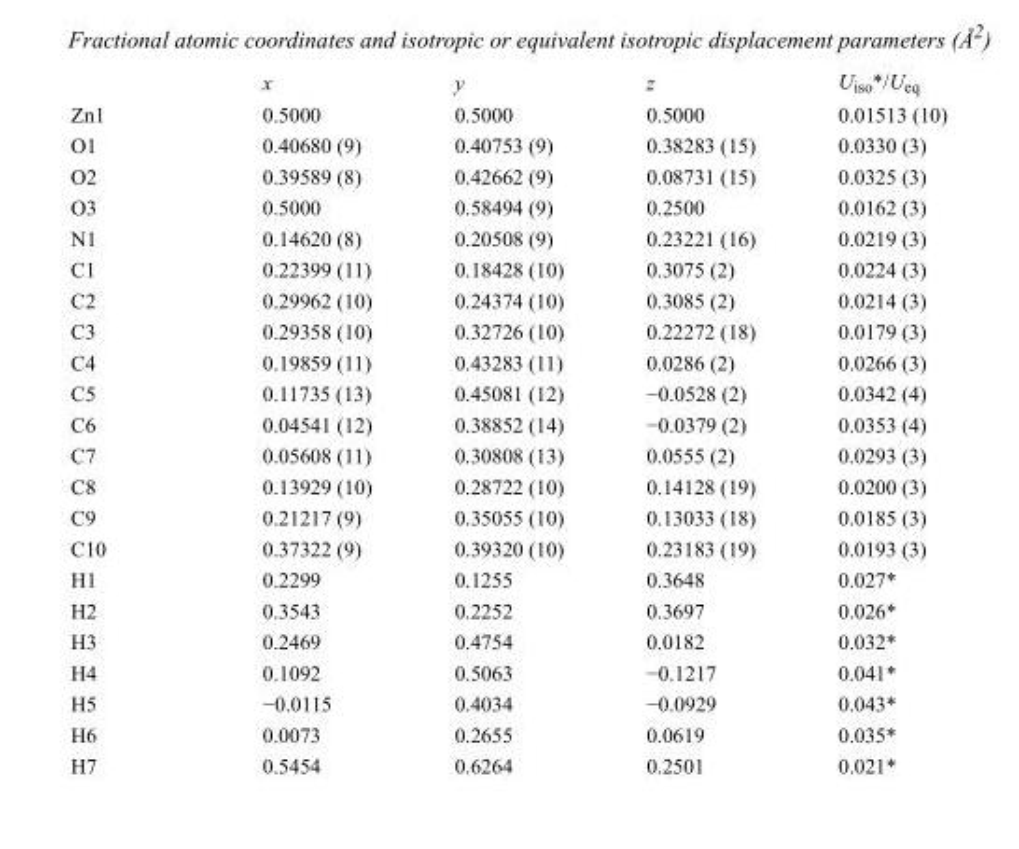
<table><thead><tr><td></td><td>x</td><td>y</td><td>z</td><td>U<sub>iso</sub>*/U<sub>eq</sub></td></tr></thead><tbody><tr><td>Zn1</td><td>0.5000</td><td>0.5000</td><td>0.5000</td><td>0.01513 (10)</td></tr><tr><td>O1</td><td>0.40680 (9)</td><td>0.40753 (9)</td><td>0.38283 (15)</td><td>0.0330 (3)</td></tr><tr><td>O2</td><td>0.39589 (8)</td><td>0.42662 (9)</td><td>0.08731 (15)</td><td>0.0325 (3)</td></tr><tr><td>O3</td><td>0.5000</td><td>0.58494 (9)</td><td>0.2500</td><td>0.0162 (3)</td></tr><tr><td>N1</td><td>0.14620 (8)</td><td>0.20508 (9)</td><td>0.23221 (16)</td><td>0.0219 (3)</td></tr><tr><td>C1</td><td>0.22399 (11)</td><td>0.18428 (10)</td><td>0.3075 (2)</td><td>0.0224 (3)</td></tr><tr><td>C2</td><td>0.29962 (10)</td><td>0.24374 (10)</td><td>0.3085 (2)</td><td>0.0214 (3)</td></tr><tr><td>C3</td><td>0.29358 (10)</td><td>0.32726 (10)</td><td>0.22272 (18)</td><td>0.0179 (3)</td></tr><tr><td>C4</td><td>0.19859 (11)</td><td>0.43283 (11)</td><td>0.0286 (2)</td><td>0.0266 (3)</td></tr><tr><td>C5</td><td>0.11735 (13)</td><td>0.45081 (12)</td><td>−0.0528 (2)</td><td>0.0342 (4)</td></tr><tr><td>C6</td><td>0.04541 (12)</td><td>0.38852 (14)</td><td>−0.0379 (2)</td><td>0.0353 (4)</td></tr><tr><td>C7</td><td>0.05608 (11)</td><td>0.30808 (13)</td><td>0.0555 (2)</td><td>0.0293 (3)</td></tr><tr><td>C8</td><td>0.13929 (10)</td><td>0.28722 (10)</td><td>0.14128 (19)</td><td>0.0200 (3)</td></tr><tr><td>C9</td><td>0.21217 (9)</td><td>0.35055 (10)</td><td>0.13033 (18)</td><td>0.0185 (3)</td></tr><tr><td>C10</td><td>0.37322 (9)</td><td>0.39320 (10)</td><td>0.23183 (19)</td><td>0.0193 (3)</td></tr><tr><td>H1</td><td>0.2299</td><td>0.1255</td><td>0.3648</td><td>0.027*</td></tr><tr><td>H2</td><td>0.3543</td><td>0.2252</td><td>0.3697</td><td>0.026*</td></tr><tr><td>H3</td><td>0.2469</td><td>0.4754</td><td>0.0182</td><td>0.032*</td></tr><tr><td>H4</td><td>0.1092</td><td>0.5063</td><td>−0.1217</td><td>0.041*</td></tr><tr><td>H5</td><td>−0.0115</td><td>0.4034</td><td>−0.0929</td><td>0.043*</td></tr><tr><td>H6</td><td>0.0073</td><td>0.2655</td><td>0.0619</td><td>0.035*</td></tr><tr><td>H7</td><td>0.5454</td><td>0.6264</td><td>0.2501</td><td>0.021*</td></tr></tbody></table>